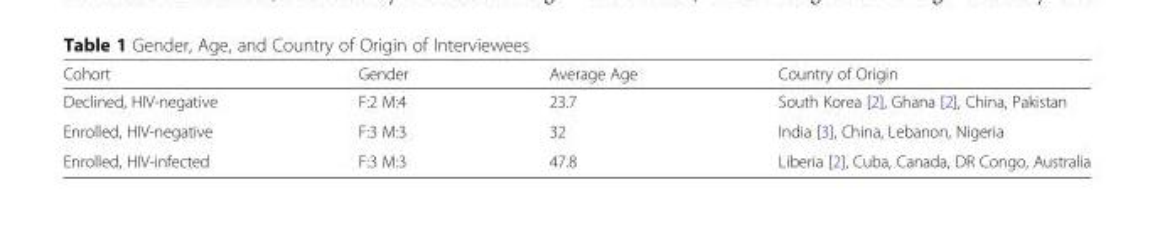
<table><thead><tr><td>Cohort</td><td>Gender</td><td>Average Age</td><td>Country of Origin</td></tr></thead><tbody><tr><td>Declined, HIV-negative</td><td>F:2 M:4</td><td>23.7</td><td>South Korea [2], Ghana [2], China, Pakistan</td></tr><tr><td>Enrolled, HIV-negative</td><td>F:3 M:3</td><td>32</td><td>India [3], China, Lebanon, Nigeria</td></tr><tr><td>Enrolled, HIV-infected</td><td>F:3 M:3</td><td>47.8</td><td>Liberia [2], Cuba, Canada, DR Congo, Australia</td></tr></tbody></table>